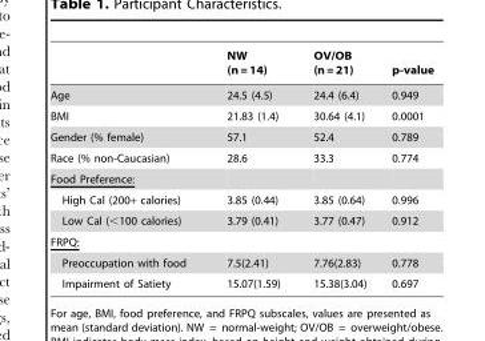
<table><thead><tr><td></td><td>NW (n = 14)</td><td>OV/OB (n = 21)</td><td>p-value</td></tr></thead><tbody><tr><td>Age</td><td>24.5 (4.5)</td><td>24.4 (6.4)</td><td>0.949</td></tr><tr><td>BMI</td><td>21.83 (1.4)</td><td>30.64 (4.1)</td><td>0.0001</td></tr><tr><td>Gender (% female)</td><td>57.1</td><td>52.4</td><td>0.789</td></tr><tr><td>Race (% non-Caucasian)</td><td>28.6</td><td>33.3</td><td>0.774</td></tr><tr><td colspan="4">Food Preference:</td></tr><tr><td>High Cal (200+ calories)</td><td>3.85 (0.44)</td><td>3.85 (0.64)</td><td>0.996</td></tr><tr><td>Low Cal (&lt;100 calories)</td><td>3.79 (0.41)</td><td>3.77 (0.47)</td><td>0.912</td></tr><tr><td colspan="4">FRPQ:</td></tr><tr><td>Preoccupation with food</td><td>7.5(2.41)</td><td>7.76(2.83)</td><td>0.778</td></tr><tr><td>Impairment of Satiety</td><td>15.07(1.59)</td><td>15.38(3.04)</td><td>0.697</td></tr></tbody></table>